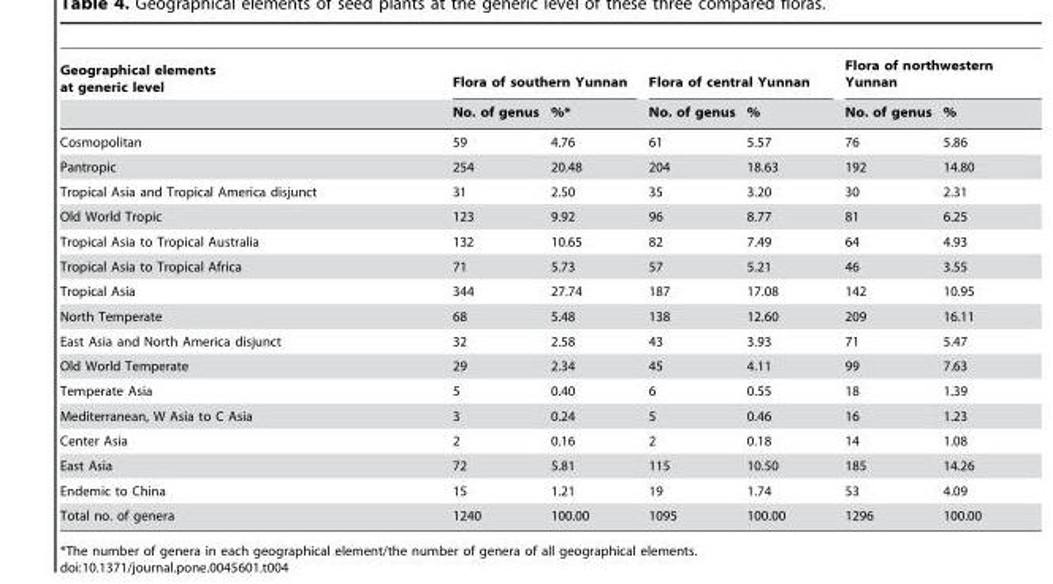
<table><thead><tr><td rowspan="2">Geographical elements at generic level</td><td colspan="2">Flora of southern Yunnan</td><td colspan="2">Flora of central Yunnan</td><td colspan="2">Flora of northwestern Yunnan</td></tr><tr><td>No. of genus</td><td>%*</td><td>No. of genus</td><td>%</td><td>No. of genus</td><td>%</td></tr></thead><tbody><tr><td>Cosmopolitan</td><td>59</td><td>4.76</td><td>61</td><td>5.57</td><td>76</td><td>5.86</td></tr><tr><td>Pantropic</td><td>254</td><td>20.48</td><td>204</td><td>18.63</td><td>192</td><td>14.80</td></tr><tr><td>Tropical Asia and Tropical America disjunct</td><td>31</td><td>2.50</td><td>35</td><td>3.20</td><td>30</td><td>2.31</td></tr><tr><td>Old World Tropic</td><td>123</td><td>9.92</td><td>96</td><td>8.77</td><td>81</td><td>6.25</td></tr><tr><td>Tropical Asia to Tropical Australia</td><td>132</td><td>10.65</td><td>82</td><td>7.49</td><td>64</td><td>4.93</td></tr><tr><td>Tropical Asia to Tropical Africa</td><td>71</td><td>5.73</td><td>57</td><td>5.21</td><td>46</td><td>3.55</td></tr><tr><td>Tropical Asia</td><td>344</td><td>27.74</td><td>187</td><td>17.08</td><td>142</td><td>10.95</td></tr><tr><td>North Temperate</td><td>68</td><td>5.48</td><td>138</td><td>12.60</td><td>209</td><td>16.11</td></tr><tr><td>East Asia and North America disjunct</td><td>32</td><td>2.58</td><td>43</td><td>3.93</td><td>71</td><td>5.47</td></tr><tr><td>Old World Temperate</td><td>29</td><td>2.34</td><td>45</td><td>4.11</td><td>99</td><td>7.63</td></tr><tr><td>Temperate Asia</td><td>5</td><td>0.40</td><td>6</td><td>0.55</td><td>18</td><td>1.39</td></tr><tr><td>Mediterranean, W Asia to C Asia</td><td>3</td><td>0.24</td><td>5</td><td>0.46</td><td>16</td><td>1.23</td></tr><tr><td>Center Asia</td><td>2</td><td>0.16</td><td>2</td><td>0.18</td><td>14</td><td>1.08</td></tr><tr><td>East Asia</td><td>72</td><td>5.81</td><td>115</td><td>10.50</td><td>185</td><td>14.26</td></tr><tr><td>Endemic to China</td><td>15</td><td>1.21</td><td>19</td><td>1.74</td><td>53</td><td>4.09</td></tr><tr><td>Total no. of genera</td><td>1240</td><td>100.00</td><td>1095</td><td>100.00</td><td>1296</td><td>100.00</td></tr></tbody></table>